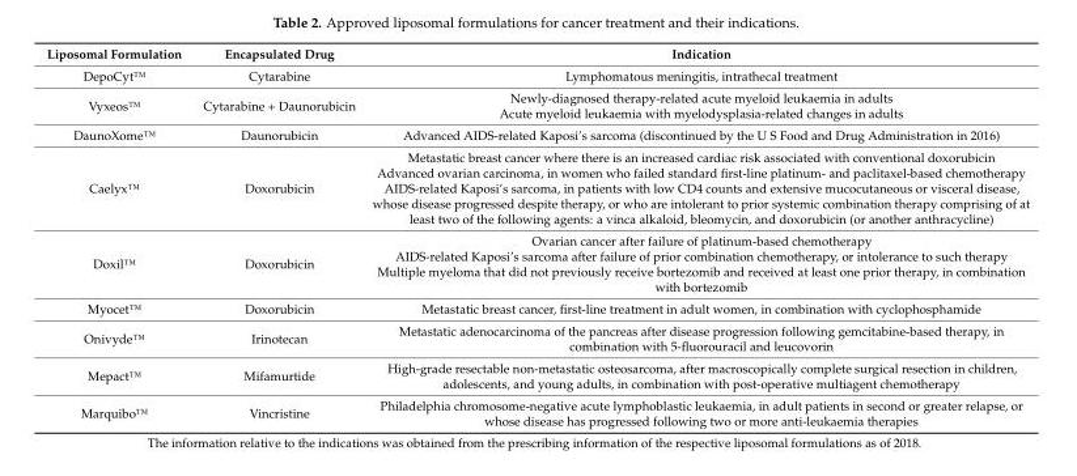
<table><thead><tr><td>Liposomal Formulation</td><td>Encapsulated Drug</td><td>Indication</td></tr></thead><tbody><tr><td>DepoCyt™</td><td>Cytarabine</td><td>Lymphomatous meningitis, intrathecal treatment</td></tr><tr><td>Vyxeos™</td><td>Cytarabine + Daunorubicin</td><td>Newly-diagnosed therapy-related acute myeloid leukaemia in adults Acute myeloid leukaemia with myelodysplasia-related changes in adults</td></tr><tr><td>DaunoXome™</td><td>Daunorubicin</td><td>Advanced AIDS-related Kaposi’s sarcoma (discontinued by the U S Food and Drug Administration in 2016)</td></tr><tr><td>Caelyx™</td><td>Doxorubicin</td><td>Metastatic breast cancer where there is an increased cardiac risk associated with conventional doxorubicin Advanced ovarian carcinoma, in women who failed standard first-line platinum- and paclitaxel-based chemotherapy AIDS-related Kaposi’s sarcoma, in patients with low CD4 counts and extensive mucocutaneous or visceral disease, whose disease progressed despite therapy, or who are intolerant to prior systemic combination therapy comprising of at least two of the following agents: a vinca alkaloid, bleomycin, and doxorubicin (or another anthracycline)</td></tr><tr><td>Doxil™</td><td>Doxorubicin</td><td>Ovarian cancer after failure of platinum-based chemotherapy AIDS-related Kaposi’s sarcoma after failure of prior combination chemotherapy, or intolerance to such therapy Multiple myeloma that did not previously receive bortezomib and received at least one prior therapy, in combination with bortezomib</td></tr><tr><td>Myocet™</td><td>Doxorubicin</td><td>Metastatic breast cancer, first-line treatment in adult women, in combination with cyclophosphamide</td></tr><tr><td>Onivyde™</td><td>Irinotecan</td><td>Metastatic adenocarcinoma of the pancreas after disease progression following gemcitabine-based therapy, in combination with 5-fluorouracil and leucovorin</td></tr><tr><td>Mepact™</td><td>Mifamurtide</td><td>High-grade resectable non-metastatic osteosarcoma, after macroscopically complete surgical resection in children, adolescents, and young adults, in combination with post-operative multiagent chemotherapy</td></tr><tr><td>Marquibo™</td><td>Vincristine</td><td>Philadelphia chromosome-negative acute lymphoblastic leukaemia, in adult patients in second or greater relapse, or whose disease has progressed following two or more anti-leukaemia therapies</td></tr></tbody></table>